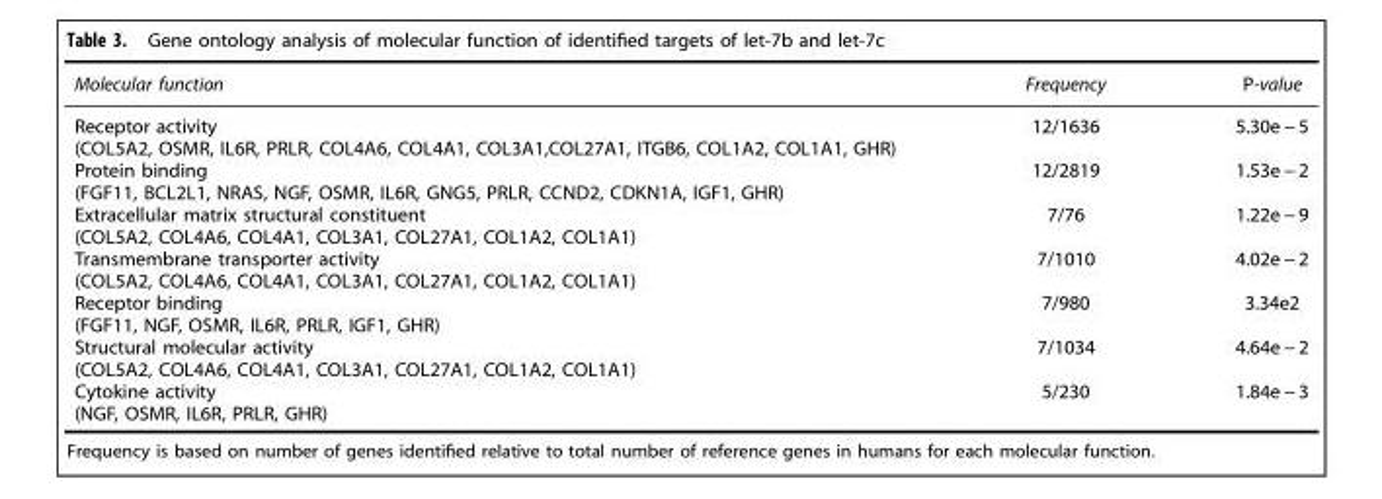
<table><thead><tr><td>Molecular function</td><td>Frequency</td><td>P-value</td></tr></thead><tbody><tr><td>Receptor activity (COL5A2, OSMR, IL6R, PRLR, COL4A6, COL4A1, COL3A1,COL27A1, ITGB6, COL1A2, COL1A1, GHR)</td><td>12/1636</td><td>5.30e − 5</td></tr><tr><td>Protein binding (FGF11, BCL2L1, NRAS, NGF, OSMR, IL6R, GNG5, PRLR, CCND2, CDKN1A, IGF1, GHR)</td><td>12/2819</td><td>1.53e − 2</td></tr><tr><td>Extracellular matrix structural constituent (COL5A2, COL4A6, COL4A1, COL3A1, COL27A1, COL1A2, COL1A1)</td><td>7/76</td><td>1.22e − 9</td></tr><tr><td>Transmembrane transporter activity (COL5A2, COL4A6, COL4A1, COL3A1, COL27A1, COL1A2, COL1A1)</td><td>7/1010</td><td>4.02e − 2</td></tr><tr><td>Receptor binding (FGF11, NGF, OSMR, IL6R, PRLR, IGF1, GHR)</td><td>7/980</td><td>3.34e2</td></tr><tr><td>Structural molecular activity (COL5A2, COL4A6, COL4A1, COL3A1, COL27A1, COL1A2, COL1A1)</td><td>7/1034</td><td>4.64e − 2</td></tr><tr><td>Cytokine activity (NGF, OSMR, IL6R, PRLR, GHR)</td><td>5/230</td><td>1.84e − 3</td></tr></tbody></table>